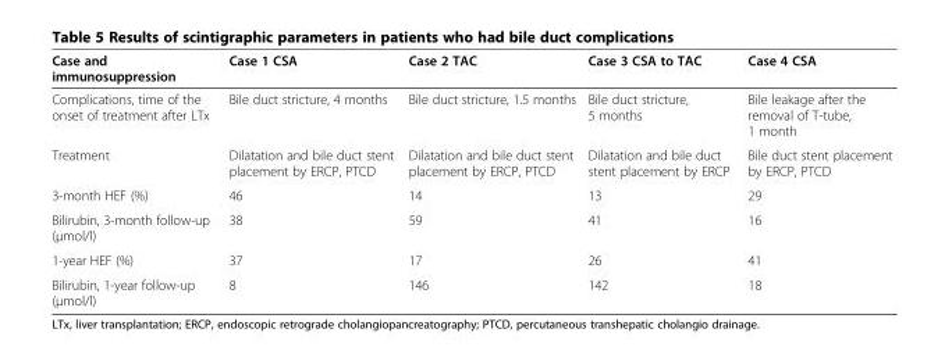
<table><thead><tr><td>Case and immunosuppression</td><td>Case 1 CSA</td><td>Case 2 TAC</td><td>Case 3 CSA to TAC</td><td>Case 4 CSA</td></tr></thead><tbody><tr><td>Complications, time of the onset of treatment after LTx</td><td>Bile duct stricture, 4 months</td><td>Bile duct stricture, 1.5 months</td><td>Bile duct stricture, 5 months</td><td>Bile leakage after the removal of T-tube, 1 month</td></tr><tr><td>Treatment</td><td>Dilatation and bile duct stent placement by ERCP, PTCD</td><td>Dilatation and bile duct stent placement by ERCP, PTCD</td><td>Dilatation and bile duct stent placement by ERCP</td><td>Bile duct stent placement by ERCP, PTCD</td></tr><tr><td>3-month HEF (%)</td><td>46</td><td>14</td><td>13</td><td>29</td></tr><tr><td>Bilirubin, 3-month follow-up (μmol/l)</td><td>38</td><td>59</td><td>41</td><td>16</td></tr><tr><td>1-year HEF (%)</td><td>37</td><td>17</td><td>26</td><td>41</td></tr><tr><td>Bilirubin, 1-year follow-up (μmol/l)</td><td>8</td><td>146</td><td>142</td><td>18</td></tr></tbody></table>